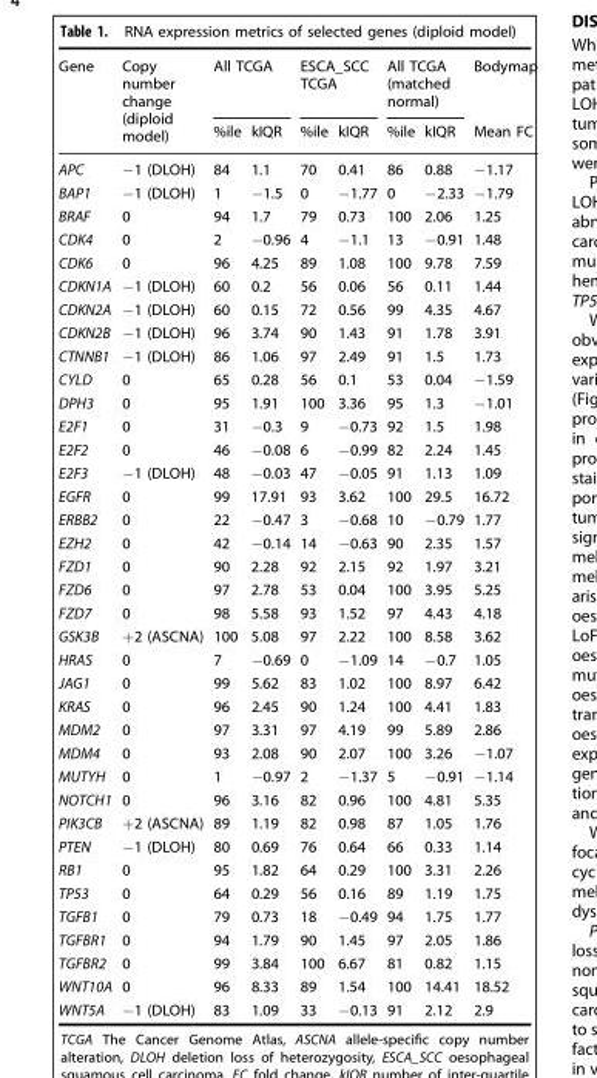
<table><thead><tr><td rowspan="2">Gene</td><td rowspan="2">Copy number change (diploid model)</td><td colspan="2">All TCGA</td><td colspan="2">ESCA_SCC TCGA</td><td colspan="2">All TCGA (matched normal)</td><td rowspan="2">Bodymap Mean FC</td></tr><tr><td>%ile</td><td>kIQR</td><td>%ile</td><td>kIQR</td><td>%ile</td><td>kIQR</td></tr></thead><tbody><tr><td>APC</td><td>−1 (DLOH)</td><td>84</td><td>1.1</td><td>70</td><td>0.41</td><td>86</td><td>0.88</td><td>−1.17</td></tr><tr><td>BAP1</td><td>−1 (DLOH)</td><td>1</td><td>−1.5</td><td>0</td><td>−1.77</td><td>0</td><td>−2.33</td><td>−1.79</td></tr><tr><td>BRAF</td><td>0</td><td>94</td><td>1.7</td><td>79</td><td>0.73</td><td>100</td><td>2.06</td><td>1.25</td></tr><tr><td>CDK4</td><td>0</td><td>2</td><td>−0.96</td><td>4</td><td>−1.1</td><td>13</td><td>−0.91</td><td>1.48</td></tr><tr><td>CDK6</td><td>0</td><td>96</td><td>4.25</td><td>89</td><td>1.08</td><td>100</td><td>9.78</td><td>7.59</td></tr><tr><td>CDKN1A</td><td>−1 (DLOH)</td><td>60</td><td>0.2</td><td>56</td><td>0.06</td><td>56</td><td>0.11</td><td>1.44</td></tr><tr><td>CDKN2A</td><td>−1 (DLOH)</td><td>60</td><td>0.15</td><td>72</td><td>0.56</td><td>99</td><td>4.35</td><td>4.67</td></tr><tr><td>CDKN2B</td><td>−1 (DLOH)</td><td>96</td><td>3.74</td><td>90</td><td>1.43</td><td>91</td><td>1.78</td><td>3.91</td></tr><tr><td>CTNNB1</td><td>−1 (DLOH)</td><td>86</td><td>1.06</td><td>97</td><td>2.49</td><td>91</td><td>1.5</td><td>1.73</td></tr><tr><td>CYLD</td><td>0</td><td>65</td><td>0.28</td><td>56</td><td>0.1</td><td>53</td><td>0.04</td><td>−1.59</td></tr><tr><td>DPH3</td><td>0</td><td>95</td><td>1.91</td><td>100</td><td>3.36</td><td>95</td><td>1.3</td><td>−1.01</td></tr><tr><td>E2F1</td><td>0</td><td>31</td><td>−0.3</td><td>9</td><td>−0.73</td><td>92</td><td>1.5</td><td>1.98</td></tr><tr><td>E2F2</td><td>0</td><td>46</td><td>−0.08</td><td>6</td><td>−0.99</td><td>82</td><td>2.24</td><td>1.45</td></tr><tr><td>E2F3</td><td>−1 (DLOH)</td><td>48</td><td>−0.03</td><td>47</td><td>−0.05</td><td>91</td><td>1.13</td><td>1.09</td></tr><tr><td>EGFR</td><td>0</td><td>99</td><td>17.91</td><td>93</td><td>3.62</td><td>100</td><td>29.5</td><td>16.72</td></tr><tr><td>ERBB2</td><td>0</td><td>22</td><td>−0.47</td><td>3</td><td>−0.68</td><td>10</td><td>−0.79</td><td>1.77</td></tr><tr><td>EZH2</td><td>0</td><td>42</td><td>−0.14</td><td>14</td><td>−0.63</td><td>90</td><td>2.35</td><td>1.57</td></tr><tr><td>FZD1</td><td>0</td><td>90</td><td>2.28</td><td>92</td><td>2.15</td><td>92</td><td>1.97</td><td>3.21</td></tr><tr><td>FZD6</td><td>0</td><td>97</td><td>2.78</td><td>53</td><td>0.04</td><td>100</td><td>3.95</td><td>5.25</td></tr><tr><td>FZD7</td><td>0</td><td>98</td><td>5.58</td><td>93</td><td>1.52</td><td>97</td><td>4.43</td><td>4.18</td></tr><tr><td>GSK3B</td><td>+2 (ASCNA)</td><td>100</td><td>5.08</td><td>97</td><td>2.22</td><td>100</td><td>8.58</td><td>3.62</td></tr><tr><td>HRAS</td><td>0</td><td>7</td><td>−0.69</td><td>0</td><td>−1.09</td><td>14</td><td>−0.7</td><td>1.05</td></tr><tr><td>JAG1</td><td>0</td><td>99</td><td>5.62</td><td>83</td><td>1.02</td><td>100</td><td>8.97</td><td>6.42</td></tr><tr><td>KRAS</td><td>0</td><td>96</td><td>2.45</td><td>90</td><td>1.24</td><td>100</td><td>4.41</td><td>1.83</td></tr><tr><td>MDM2</td><td>0</td><td>97</td><td>3.31</td><td>97</td><td>4.19</td><td>99</td><td>5.89</td><td>2.86</td></tr><tr><td>MDM4</td><td>0</td><td>93</td><td>2.08</td><td>90</td><td>2.07</td><td>100</td><td>3.26</td><td>−1.07</td></tr><tr><td>MUTYH</td><td>0</td><td>1</td><td>−0.97</td><td>2</td><td>−1.37</td><td>5</td><td>−0.91</td><td>−1.14</td></tr><tr><td>NOTCH1</td><td>0</td><td>96</td><td>3.16</td><td>82</td><td>0.96</td><td>100</td><td>4.81</td><td>5.35</td></tr><tr><td>PIK3CB</td><td>+2 (ASCNA)</td><td>89</td><td>1.19</td><td>82</td><td>0.98</td><td>87</td><td>1.05</td><td>1.76</td></tr><tr><td>PTEN</td><td>−1 (DLOH)</td><td>80</td><td>0.69</td><td>76</td><td>0.64</td><td>66</td><td>0.33</td><td>1.14</td></tr><tr><td>RB1</td><td>0</td><td>95</td><td>1.82</td><td>64</td><td>0.29</td><td>100</td><td>3.31</td><td>2.26</td></tr><tr><td>TP53</td><td>0</td><td>64</td><td>0.29</td><td>56</td><td>0.16</td><td>89</td><td>1.19</td><td>1.75</td></tr><tr><td>TGFB1</td><td>0</td><td>79</td><td>0.73</td><td>18</td><td>−0.49</td><td>94</td><td>1.75</td><td>1.77</td></tr><tr><td>TGFBR1</td><td>0</td><td>94</td><td>1.79</td><td>90</td><td>1.45</td><td>97</td><td>2.05</td><td>1.86</td></tr><tr><td>TGFBR2</td><td>0</td><td>99</td><td>3.84</td><td>100</td><td>6.67</td><td>81</td><td>0.82</td><td>1.15</td></tr><tr><td>WNT10A</td><td>0</td><td>96</td><td>8.33</td><td>89</td><td>1.54</td><td>100</td><td>14.41</td><td>18.52</td></tr><tr><td>WNT5A</td><td>−1 (DLOH)</td><td>83</td><td>1.09</td><td>33</td><td>−0.13</td><td>91</td><td>2.12</td><td>2.9</td></tr></tbody></table>